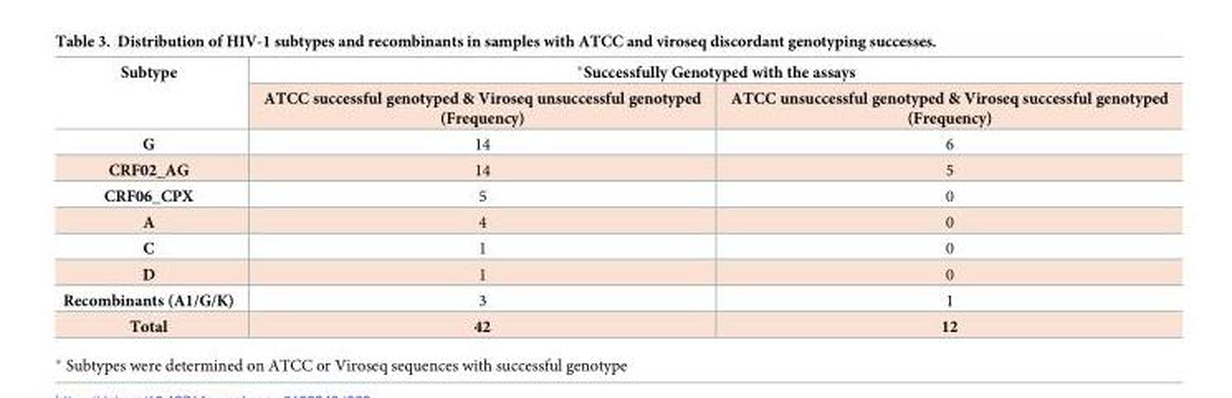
<table><thead><tr><td rowspan="2">Subtype</td><td colspan="2">*Successfully Genotyped with the assays</td></tr><tr><td>ATCC successful genotyped &amp; Viroseq unsuccessful genotyped (Frequency)</td><td>ATCC unsuccessful genotyped &amp; Viroseq successful genotyped (Frequency)</td></tr></thead><tbody><tr><td>G</td><td>14</td><td>6</td></tr><tr><td>CRF02_AG</td><td>14</td><td>5</td></tr><tr><td>CRF06_CPX</td><td>5</td><td>0</td></tr><tr><td>A</td><td>4</td><td>0</td></tr><tr><td>C</td><td>1</td><td>0</td></tr><tr><td>D</td><td>1</td><td>0</td></tr><tr><td>Recombinants (A1/G/K)</td><td>3</td><td>1</td></tr><tr><td>Total</td><td>42</td><td>12</td></tr></tbody></table>